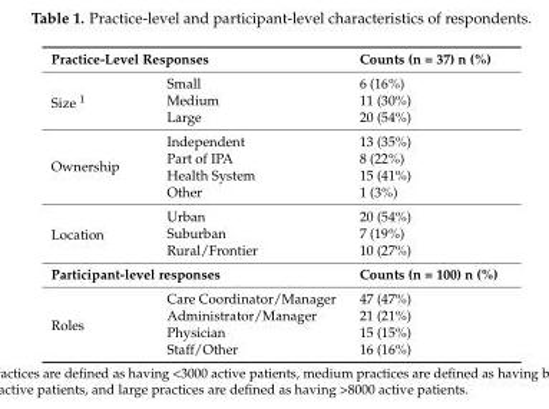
<table><tbody><tr><td colspan="2">Practice-Level Responses</td><td>Counts (n = 37) n (%)</td></tr><tr><td rowspan="3">Size <sup>1</sup></td><td>Small</td><td>6 (16%)</td></tr><tr><td>Medium</td><td>11 (30%)</td></tr><tr><td>Large</td><td>20 (54%)</td></tr><tr><td rowspan="4">Ownership</td><td>Independent</td><td>13 (35%)</td></tr><tr><td>Part of IPA</td><td>8 (22%)</td></tr><tr><td>Health System</td><td>15 (41%)</td></tr><tr><td>Other</td><td>1 (3%)</td></tr><tr><td rowspan="3">Location</td><td>Urban</td><td>20 (54%)</td></tr><tr><td>Suburban</td><td>7 (19%)</td></tr><tr><td>Rural/Frontier</td><td>10 (27%)</td></tr><tr><td colspan="2">Participant-level responses</td><td>Counts (n = 100) n (%)</td></tr><tr><td rowspan="4">Roles</td><td>Care Coordinator/Manager</td><td>47 (47%)</td></tr><tr><td>Administrator/Manager</td><td>21 (21%)</td></tr><tr><td>Physician</td><td>15 (15%)</td></tr><tr><td>Staff/Other</td><td>16 (16%)</td></tr></tbody></table>